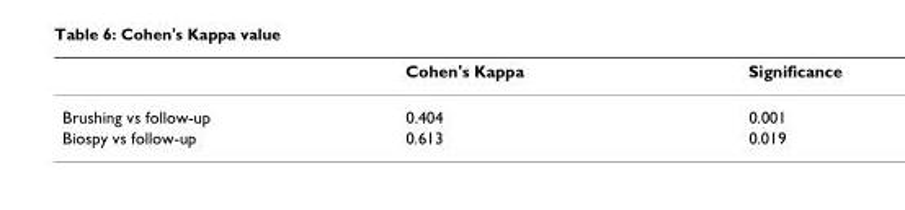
<table><thead><tr><td></td><td>Cohen&#x27;s Kappa</td><td>Significance</td></tr></thead><tbody><tr><td>Brushing vs follow-up</td><td>0.404</td><td>0.001</td></tr><tr><td>Biospy vs follow-up</td><td>0.613</td><td>0.019</td></tr></tbody></table>